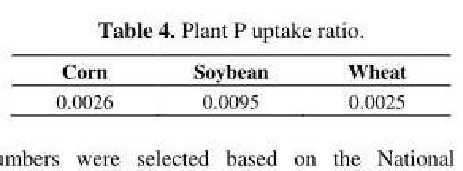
<table><thead><tr><td>Corn</td><td>Soybean</td><td>Wheat</td></tr></thead><tbody><tr><td>0.0026</td><td>0.0095</td><td>0.0025</td></tr></tbody></table>